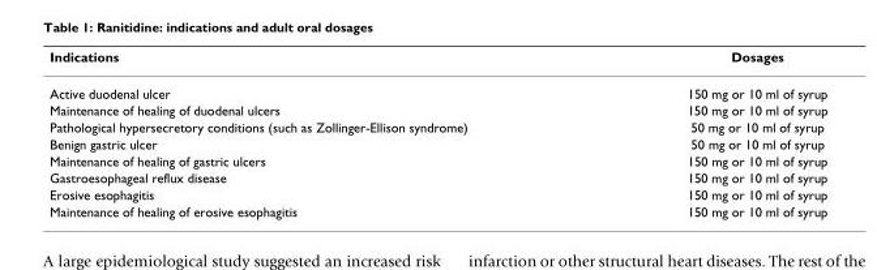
<table><thead><tr><td>Indications</td><td>Dosages</td></tr></thead><tbody><tr><td>Active duodenal ulcer</td><td>150 mg or 10 ml of syrup</td></tr><tr><td>Maintenance of healing of duodenal ulcers</td><td>150 mg or 10 ml of syrup</td></tr><tr><td>Pathological hypersecretory conditions (such as Zollinger-Ellison syndrome)</td><td>50 mg or 10 ml of syrup</td></tr><tr><td>Benign gastric ulcer</td><td>50 mg or 10 ml of syrup</td></tr><tr><td>Maintenance of healing of gastric ulcers</td><td>150 mg or 10 ml of syrup</td></tr><tr><td>Gastroesophageal reflux disease</td><td>150 mg or 10 ml of syrup</td></tr><tr><td>Erosive esophagitis</td><td>150 mg or 10 ml of syrup</td></tr><tr><td>Maintenance of healing of erosive esophagitis</td><td>150 mg or 10 ml of syrup</td></tr></tbody></table>